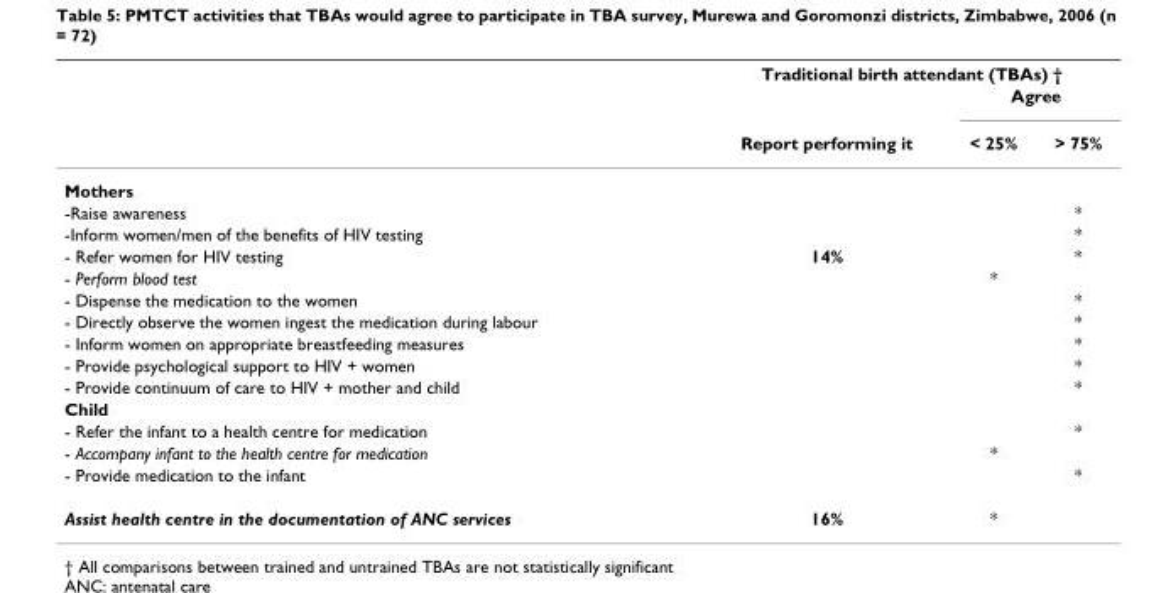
<table><thead><tr><td rowspan="3"></td><td colspan="3">Traditional birth attendant (TBAs) †</td></tr><tr><td rowspan="2">Report performing it</td><td colspan="2">Agree</td></tr><tr><td>&lt; 25%</td><td>&gt; 75%</td></tr></thead><tbody><tr><td colspan="4">Mothers</td></tr><tr><td>-Raise awareness</td><td></td><td></td><td>*</td></tr><tr><td>-Inform women/men of the benefits of HIV testing</td><td></td><td></td><td>*</td></tr><tr><td>- Refer women for HIV testing</td><td>14%</td><td></td><td>*</td></tr><tr><td>- Perform blood test</td><td></td><td>*</td><td></td></tr><tr><td>- Dispense the medication to the women</td><td></td><td></td><td>*</td></tr><tr><td>- Directly observe the women ingest the medication during labour</td><td></td><td></td><td>*</td></tr><tr><td>- Inform women on appropriate breastfeeding measures</td><td></td><td></td><td>*</td></tr><tr><td>- Provide psychological support to HIV + women</td><td></td><td></td><td>*</td></tr><tr><td>- Provide continuum of care to HIV + mother and child</td><td></td><td></td><td>*</td></tr><tr><td colspan="4">Child</td></tr><tr><td>- Refer the infant to a health centre for medication</td><td></td><td></td><td>*</td></tr><tr><td>- Accompany infant to the health centre for medication</td><td></td><td>*</td><td></td></tr><tr><td>- Provide medication to the infant</td><td></td><td></td><td>*</td></tr><tr><td>Assist health centre in the documentation of ANC services</td><td>16%</td><td>*</td><td></td></tr></tbody></table>